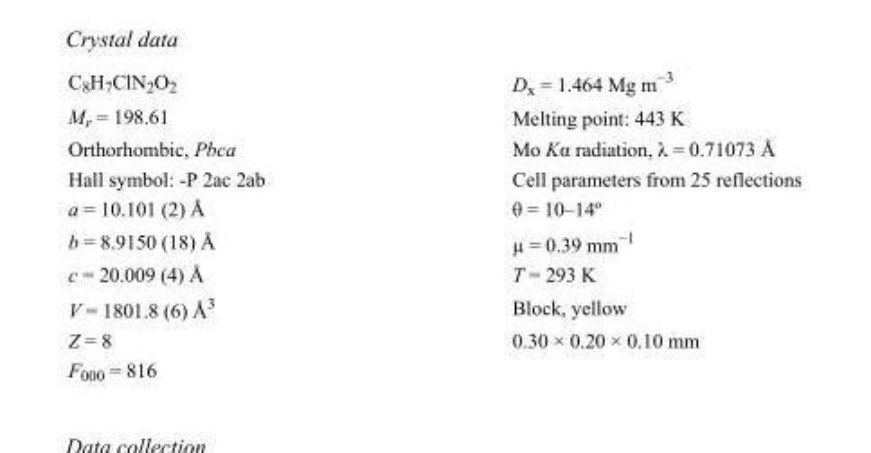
<table><tbody><tr><td>C<sub>8</sub>H<sub>7</sub>ClN<sub>2</sub>O<sub>2</sub></td><td>D<sub>x</sub> = 1.464 Mg m<sup>−3</sup></td></tr><tr><td>M<sub>r</sub> = 198.61</td><td>Melting point: 443 K</td></tr><tr><td>Orthorhombic, Pbca</td><td>Mo Kα radiation, λ = 0.71073 Å</td></tr><tr><td>Hall symbol: -P 2ac 2ab</td><td>Cell parameters from 25 reflections</td></tr><tr><td>a = 10.101 (2) Å</td><td>θ = 10–14º</td></tr><tr><td>b = 8.9150 (18) Å</td><td>µ = 0.39 mm<sup>−1</sup></td></tr><tr><td>c = 20.009 (4) Å</td><td>T = 293 K</td></tr><tr><td>V = 1801.8 (6) Å<sup>3</sup></td><td>Block, yellow</td></tr><tr><td>Z = 8</td><td>0.30 × 0.20 × 0.10 mm</td></tr><tr><td>F000 = 816</td><td></td></tr></tbody></table>